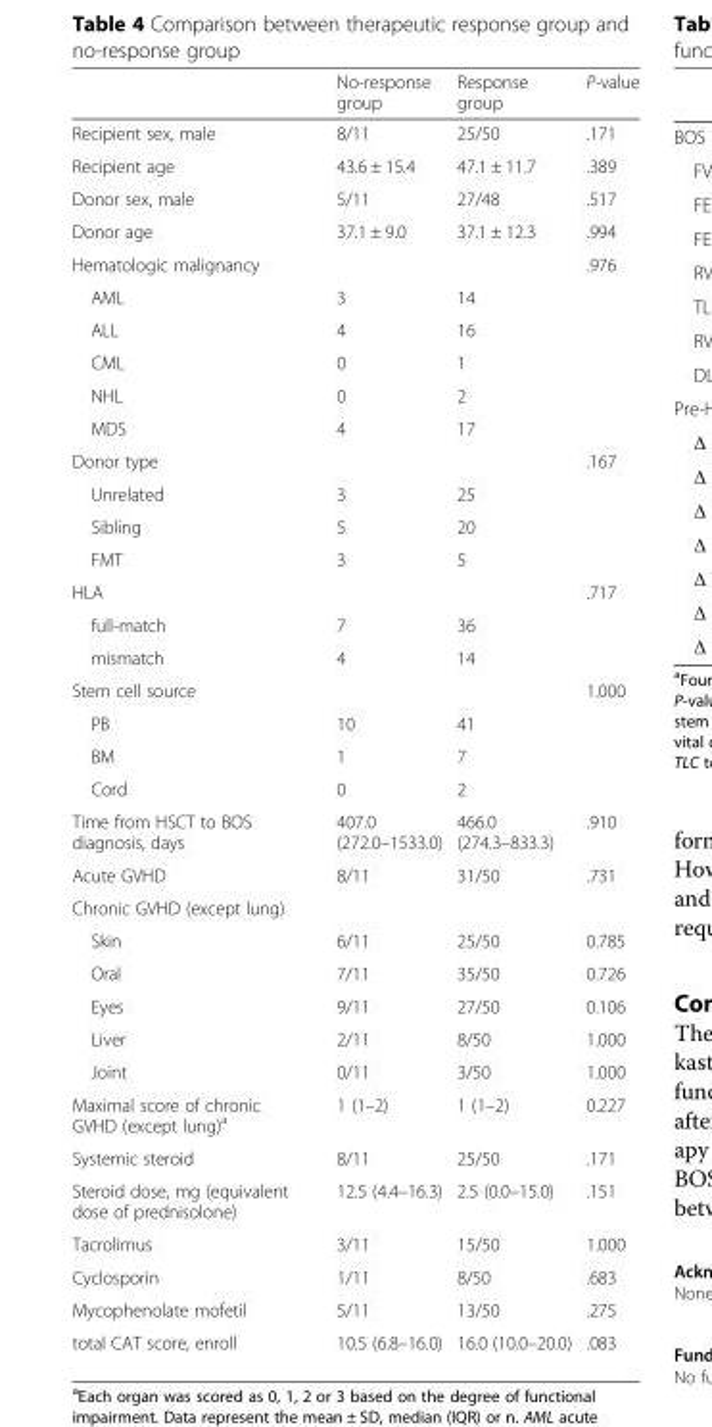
<table><thead><tr><td></td><td>No-response group</td><td>Response group</td><td>P-value</td></tr></thead><tbody><tr><td>Recipient sex, male</td><td>8/11</td><td>25/50</td><td>.171</td></tr><tr><td>Recipient age</td><td>43.6 ± 15.4</td><td>47.1 ± 11.7</td><td>.389</td></tr><tr><td>Donor sex, male</td><td>5/11</td><td>27/48</td><td>.517</td></tr><tr><td>Donor age</td><td>37.1 ± 9.0</td><td>37.1 ± 12.3</td><td>.994</td></tr><tr><td>Hematologic malignancy</td><td></td><td></td><td>.976</td></tr><tr><td>AML</td><td>3</td><td>14</td><td></td></tr><tr><td>ALL</td><td>4</td><td>16</td><td></td></tr><tr><td>CML</td><td>0</td><td>1</td><td></td></tr><tr><td>NHL</td><td>0</td><td>2</td><td></td></tr><tr><td>MDS</td><td>4</td><td>17</td><td></td></tr><tr><td>Donor type</td><td></td><td></td><td>.167</td></tr><tr><td>Unrelated</td><td>3</td><td>25</td><td></td></tr><tr><td>Sibling</td><td>5</td><td>20</td><td></td></tr><tr><td>FMT</td><td>3</td><td>5</td><td></td></tr><tr><td>HLA</td><td></td><td></td><td>.717</td></tr><tr><td>full-match</td><td>7</td><td>36</td><td></td></tr><tr><td>mismatch</td><td>4</td><td>14</td><td></td></tr><tr><td>Stem cell source</td><td></td><td></td><td>1.000</td></tr><tr><td>PB</td><td>10</td><td>41</td><td></td></tr><tr><td>BM</td><td>1</td><td>7</td><td></td></tr><tr><td>Cord</td><td>0</td><td>2</td><td></td></tr><tr><td>Time from HSCT to BOS diagnosis, days</td><td>407.0 (272.0–1533.0)</td><td>466.0 (274.3–833.3)</td><td>.910</td></tr><tr><td>Acute GVHD</td><td>8/11</td><td>31/50</td><td>.731</td></tr><tr><td colspan="4">Chronic GVHD (except lung)</td></tr><tr><td>Skin</td><td>6/11</td><td>25/50</td><td>0.785</td></tr><tr><td>Oral</td><td>7/11</td><td>35/50</td><td>0.726</td></tr><tr><td>Eyes</td><td>9/11</td><td>27/50</td><td>0.106</td></tr><tr><td>Liver</td><td>2/11</td><td>8/50</td><td>1.000</td></tr><tr><td>Joint</td><td>0/11</td><td>3/50</td><td>1.000</td></tr><tr><td>Maximal score of chronic GVHD (except lung)<sup>a</sup></td><td>1 (1–2)</td><td>1 (1–2)</td><td>0.227</td></tr><tr><td>Systemic steroid</td><td>8/11</td><td>25/50</td><td>.171</td></tr><tr><td>Steroid dose, mg (equivalent dose of prednisolone)</td><td>12.5 (4.4–16.3)</td><td>2.5 (0.0–15.0)</td><td>.151</td></tr><tr><td>Tacrolimus</td><td>3/11</td><td>15/50</td><td>1.000</td></tr><tr><td>Cyclosporin</td><td>1/11</td><td>8/50</td><td>.683</td></tr><tr><td>Mycophenolate mofetil</td><td>5/11</td><td>13/50</td><td>.275</td></tr><tr><td>total CAT score, enroll</td><td>10.5 (6.8–16.0)</td><td>16.0 (10.0–20.0)</td><td>.083</td></tr></tbody></table>